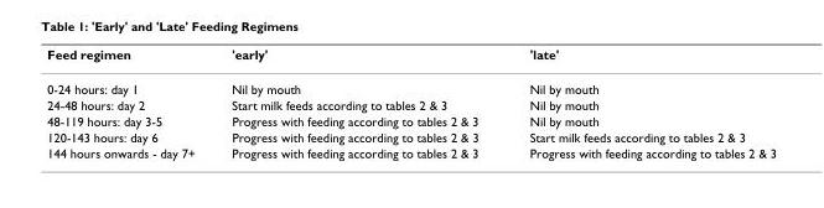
<table><thead><tr><td>Feed regimen</td><td>&#x27;early&#x27;</td><td>&#x27;late&#x27;</td></tr></thead><tbody><tr><td>0-24 hours: day 1</td><td>Nil by mouth</td><td>Nil by mouth</td></tr><tr><td>24-48 hours: day 2</td><td>Start milk feeds according to tables 2 &amp; 3</td><td>Nil by mouth</td></tr><tr><td>48-119 hours: day 3-5</td><td>Progress with feeding according to tables 2 &amp; 3</td><td>Nil by mouth</td></tr><tr><td>120-143 hours: day 6</td><td>Progress with feeding according to tables 2 &amp; 3</td><td>Start milk feeds according to tables 2 &amp; 3</td></tr><tr><td>144 hours onwards - day 7+</td><td>Progress with feeding according to tables 2 &amp; 3</td><td>Progress with feeding according to tables 2 &amp; 3</td></tr></tbody></table>